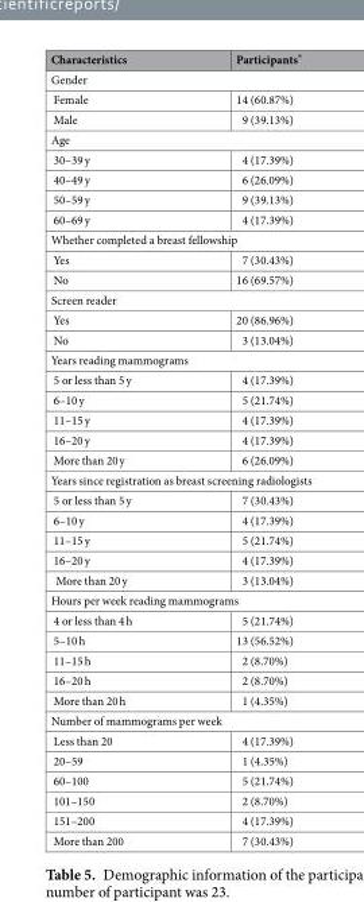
<table><thead><tr><td>Characteristics</td><td>Participants*</td></tr></thead><tbody><tr><td colspan="2">Gender</td></tr><tr><td>Female</td><td>14 (60.87%)</td></tr><tr><td>Male</td><td>9 (39.13%)</td></tr><tr><td colspan="2">Age</td></tr><tr><td>30–39 y</td><td>4 (17.39%)</td></tr><tr><td>40–49 y</td><td>6 (26.09%)</td></tr><tr><td>50–59 y</td><td>9 (39.13%)</td></tr><tr><td>60–69 y</td><td>4 (17.39%)</td></tr><tr><td colspan="2">Whether completed a breast fellowship</td></tr><tr><td>Yes</td><td>7 (30.43%)</td></tr><tr><td>No</td><td>16 (69.57%)</td></tr><tr><td colspan="2">Screen reader</td></tr><tr><td>Yes</td><td>20 (86.96%)</td></tr><tr><td>No</td><td>3 (13.04%)</td></tr><tr><td colspan="2">Years reading mammograms</td></tr><tr><td>5 or less than 5 y</td><td>4 (17.39%)</td></tr><tr><td>6–10 y</td><td>5 (21.74%)</td></tr><tr><td>11–15 y</td><td>4 (17.39%)</td></tr><tr><td>16–20 y</td><td>4 (17.39%)</td></tr><tr><td>More than 20 y</td><td>6 (26.09%)</td></tr><tr><td colspan="2">Years since registration as breast screening radiologists</td></tr><tr><td>5 or less than 5 y</td><td>7 (30.43%)</td></tr><tr><td>6–10 y</td><td>4 (17.39%)</td></tr><tr><td>11–15 y</td><td>5 (21.74%)</td></tr><tr><td>16–20 y</td><td>4 (17.39%)</td></tr><tr><td>More than 20 y</td><td>3 (13.04%)</td></tr><tr><td colspan="2">Hours per week reading mammograms</td></tr><tr><td>4 or less than 4 h</td><td>5 (21.74%)</td></tr><tr><td>5–10 h</td><td>13 (56.52%)</td></tr><tr><td>11–15 h</td><td>2 (8.70%)</td></tr><tr><td>16–20 h</td><td>2 (8.70%)</td></tr><tr><td>More than 20 h</td><td>1 (4.35%)</td></tr><tr><td colspan="2">Number of mammograms per week</td></tr><tr><td>Less than 20</td><td>4 (17.39%)</td></tr><tr><td>20–59</td><td>1 (4.35%)</td></tr><tr><td>60–100</td><td>5 (21.74%)</td></tr><tr><td>101–150</td><td>2 (8.70%)</td></tr><tr><td>151–200</td><td>4 (17.39%)</td></tr><tr><td>More than 200</td><td>7 (30.43%)</td></tr></tbody></table>